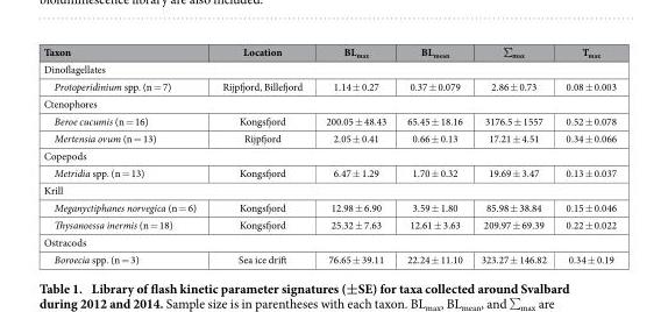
<table><thead><tr><td>Taxon</td><td>Location</td><td>BL<sub>max</sub></td><td>BL<sub>mean</sub></td><td>∑<sub>max</sub></td><td>T<sub>max</sub></td></tr></thead><tbody><tr><td colspan="6">Dinoflagellates</td></tr><tr><td>Protoperidinium spp. (n = 7)</td><td>Rijpfjord, Billefjord</td><td>1.14 ± 0.27</td><td>0.37 ± 0.079</td><td>2.86 ± 0.73</td><td>0.08 ± 0.003</td></tr><tr><td colspan="6">Ctenophores</td></tr><tr><td>Beroe cucumis (n = 16)</td><td>Kongsfjord</td><td>200.05 ± 48.43</td><td>65.45 ± 18.16</td><td>3176.5 ± 1557</td><td>0.52 ± 0.078</td></tr><tr><td>Mertensia ovum (n = 13)</td><td>Rijpfjord</td><td>2.05 ± 0.41</td><td>0.66 ± 0.13</td><td>17.21 ± 4.51</td><td>0.34 ± 0.066</td></tr><tr><td colspan="6">Copepods</td></tr><tr><td>Metridia spp. (n = 13)</td><td>Kongsfjord</td><td>6.47 ± 1.29</td><td>1.70 ± 0.32</td><td>19.69 ± 3.47</td><td>0.13 ± 0.037</td></tr><tr><td colspan="6">Krill</td></tr><tr><td>Meganyctiphanes norvegica (n = 6)</td><td>Kongsfjord</td><td>12.98 ± 6.90</td><td>3.59 ± 1.80</td><td>85.98 ± 38.84</td><td>0.15 ± 0.046</td></tr><tr><td>Thysanoessa inermis (n = 18)</td><td>Kongsfjord</td><td>25.32 ± 7.63</td><td>12.61 ± 3.63</td><td>209.97 ± 69.39</td><td>0.22 ± 0.022</td></tr><tr><td colspan="6">Ostracods</td></tr><tr><td>Boroecia spp. (n = 3)</td><td>Sea ice drift</td><td>76.65 ± 39.11</td><td>22.24 ± 11.10</td><td>323.27 ± 146.82</td><td>0.34 ± 0.19</td></tr></tbody></table>